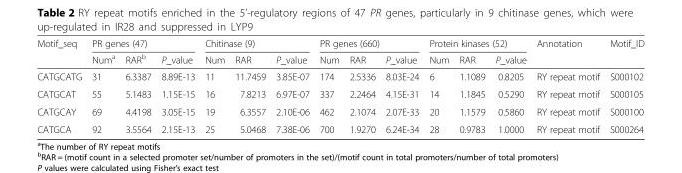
<table><thead><tr><td rowspan="2">Motif_seq</td><td colspan="3">PR genes (47)</td><td colspan="3">Chitinase (9)</td><td colspan="3">PR genes (660)</td><td colspan="3">Protein kinases (52)</td><td rowspan="2">Annotation</td><td rowspan="2">Motif_ID</td></tr><tr><td>Num<sup>a</sup></td><td>RAR<sup>b</sup></td><td>P_value</td><td>Num</td><td>RAR</td><td>P_value</td><td>Num</td><td>RAR</td><td>P_value</td><td>Num</td><td>RAR</td><td>P_value</td></tr></thead><tbody><tr><td>CATGCATG</td><td>31</td><td>6.3387</td><td>8.89E-13</td><td>11</td><td>11.7459</td><td>3.85E-07</td><td>174</td><td>2.5336</td><td>8.03E-24</td><td>6</td><td>1.1089</td><td>0.8205</td><td>RY repeat motif</td><td>S000102</td></tr><tr><td>CATGCAT</td><td>55</td><td>5.1483</td><td>1.15E-15</td><td>16</td><td>7.8213</td><td>6.97E-07</td><td>337</td><td>2.2464</td><td>4.15E-31</td><td>14</td><td>1.1845</td><td>0.5290</td><td>RY repeat motif</td><td>S000105</td></tr><tr><td>CATGCAY</td><td>69</td><td>4.4198</td><td>3.05E-15</td><td>19</td><td>6.3557</td><td>2.10E-06</td><td>462</td><td>2.1074</td><td>2.07E-33</td><td>20</td><td>1.1579</td><td>0.5860</td><td>RY repeat motif</td><td>S000100</td></tr><tr><td>CATGCA</td><td>92</td><td>3.5564</td><td>2.15E-13</td><td>25</td><td>5.0468</td><td>7.38E-06</td><td>700</td><td>1.9270</td><td>6.24E-34</td><td>28</td><td>0.9783</td><td>1.0000</td><td>RY repeat motif</td><td>S000264</td></tr></tbody></table>